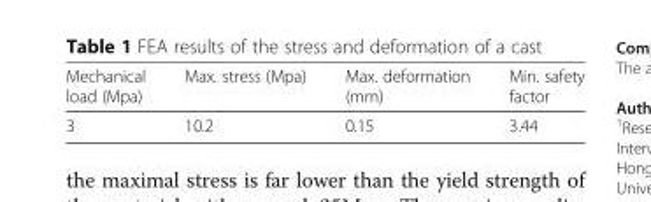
<table><thead><tr><td>Mechanical load (Mpa)</td><td>Max. stress (Mpa)</td><td>Max. deformation (mm)</td><td>Min. safety factor</td></tr></thead><tbody><tr><td>3</td><td>10.2</td><td>0.15</td><td>3.44</td></tr></tbody></table>